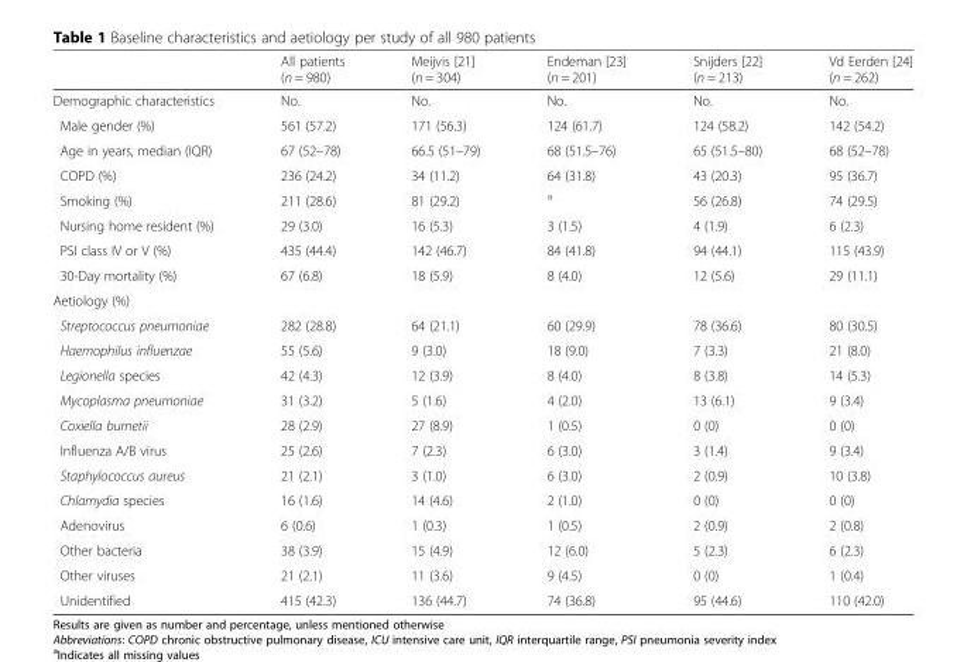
<table><thead><tr><td></td><td>All patients (n = 980)</td><td>Meijvis [21] (n = 304)</td><td>Endeman [23] (n = 201)</td><td>Snijders [22] (n = 213)</td><td>Vd Eerden [24] (n = 262)</td></tr></thead><tbody><tr><td>Demographic characteristics</td><td>No.</td><td>No.</td><td>No.</td><td>No.</td><td>No.</td></tr><tr><td>Male gender (%)</td><td>561 (57.2)</td><td>171 (56.3)</td><td>124 (61.7)</td><td>124 (58.2)</td><td>142 (54.2)</td></tr><tr><td>Age in years, median (IQR)</td><td>67 (52–78)</td><td>66.5 (51–79)</td><td>68 (51.5–76)</td><td>65 (51.5–80)</td><td>68 (52–78)</td></tr><tr><td>COPD (%)</td><td>236 (24.2)</td><td>34 (11.2)</td><td>64 (31.8)</td><td>43 (20.3)</td><td>95 (36.7)</td></tr><tr><td>Smoking (%)</td><td>211 (28.6)</td><td>81 (29.2)</td><td><sup>a</sup></td><td>56 (26.8)</td><td>74 (29.5)</td></tr><tr><td>Nursing home resident (%)</td><td>29 (3.0)</td><td>16 (5.3)</td><td>3 (1.5)</td><td>4 (1.9)</td><td>6 (2.3)</td></tr><tr><td>PSI class IV or V (%)</td><td>435 (44.4)</td><td>142 (46.7)</td><td>84 (41.8)</td><td>94 (44.1)</td><td>115 (43.9)</td></tr><tr><td>30-Day mortality (%)</td><td>67 (6.8)</td><td>18 (5.9)</td><td>8 (4.0)</td><td>12 (5.6)</td><td>29 (11.1)</td></tr><tr><td colspan="6">Aetiology (%)</td></tr><tr><td>Streptococcus pneumoniae</td><td>282 (28.8)</td><td>64 (21.1)</td><td>60 (29.9)</td><td>78 (36.6)</td><td>80 (30.5)</td></tr><tr><td>Haemophilus influenzae</td><td>55 (5.6)</td><td>9 (3.0)</td><td>18 (9.0)</td><td>7 (3.3)</td><td>21 (8.0)</td></tr><tr><td>Legionella species</td><td>42 (4.3)</td><td>12 (3.9)</td><td>8 (4.0)</td><td>8 (3.8)</td><td>14 (5.3)</td></tr><tr><td>Mycoplasma pneumoniae</td><td>31 (3.2)</td><td>5 (1.6)</td><td>4 (2.0)</td><td>13 (6.1)</td><td>9 (3.4)</td></tr><tr><td>Coxiella burnetii</td><td>28 (2.9)</td><td>27 (8.9)</td><td>1 (0.5)</td><td>0 (0)</td><td>0 (0)</td></tr><tr><td>Influenza A/B virus</td><td>25 (2.6)</td><td>7 (2.3)</td><td>6 (3.0)</td><td>3 (1.4)</td><td>9 (3.4)</td></tr><tr><td>Staphylococcus aureus</td><td>21 (2.1)</td><td>3 (1.0)</td><td>6 (3.0)</td><td>2 (0.9)</td><td>10 (3.8)</td></tr><tr><td>Chlamydia species</td><td>16 (1.6)</td><td>14 (4.6)</td><td>2 (1.0)</td><td>0 (0)</td><td>0 (0)</td></tr><tr><td>Adenovirus</td><td>6 (0.6)</td><td>1 (0.3)</td><td>1 (0.5)</td><td>2 (0.9)</td><td>2 (0.8)</td></tr><tr><td>Other bacteria</td><td>38 (3.9)</td><td>15 (4.9)</td><td>12 (6.0)</td><td>5 (2.3)</td><td>6 (2.3)</td></tr><tr><td>Other viruses</td><td>21 (2.1)</td><td>11 (3.6)</td><td>9 (4.5)</td><td>0 (0)</td><td>1 (0.4)</td></tr><tr><td>Unidentified</td><td>415 (42.3)</td><td>136 (44.7)</td><td>74 (36.8)</td><td>95 (44.6)</td><td>110 (42.0)</td></tr></tbody></table>